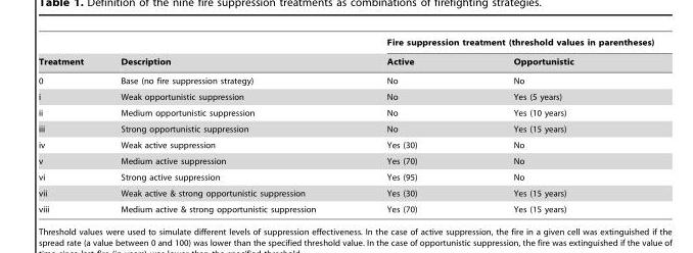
<table><thead><tr><td rowspan="2">Treatment</td><td rowspan="2">Description</td><td colspan="2">Fire suppression treatment (threshold values in parentheses)</td></tr><tr><td>Active</td><td>Opportunistic</td></tr></thead><tbody><tr><td>0</td><td>Base (no fire suppression strategy)</td><td>No</td><td>No</td></tr><tr><td>i</td><td>Weak opportunistic suppression</td><td>No</td><td>Yes (5 years)</td></tr><tr><td>ii</td><td>Medium opportunistic suppression</td><td>No</td><td>Yes (10 years)</td></tr><tr><td>iii</td><td>Strong opportunistic suppression</td><td>No</td><td>Yes (15 years)</td></tr><tr><td>iv</td><td>Weak active suppression</td><td>Yes (30)</td><td>No</td></tr><tr><td>v</td><td>Medium active suppression</td><td>Yes (70)</td><td>No</td></tr><tr><td>vi</td><td>Strong active suppression</td><td>Yes (95)</td><td>No</td></tr><tr><td>vii</td><td>Weak active &amp; strong opportunistic suppression</td><td>Yes (30)</td><td>Yes (15 years)</td></tr><tr><td>viii</td><td>Medium active &amp; strong opportunistic suppression</td><td>Yes (70)</td><td>Yes (15 years)</td></tr></tbody></table>